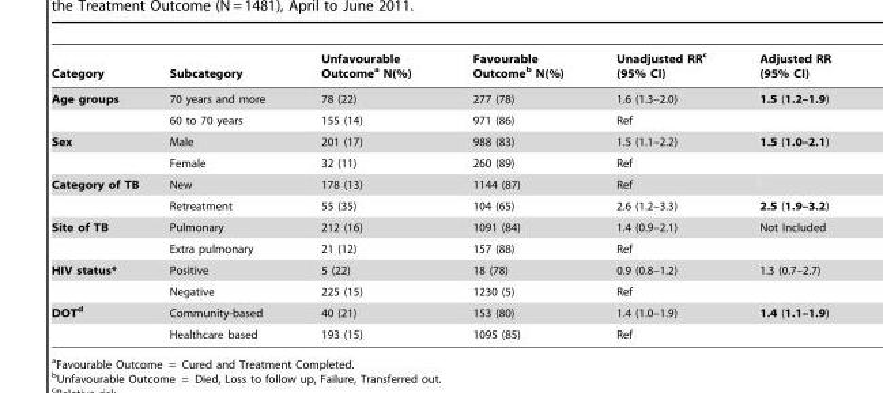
<table><thead><tr><td>Category</td><td>Subcategory</td><td>Unfavourable Outcome<sup>a</sup> N(%)</td><td>Favourable Outcome<sup>b</sup> N(%)</td><td>Unadjusted RR<sup>c</sup> (95% CI)</td><td>Adjusted RR (95% CI)</td></tr></thead><tbody><tr><td rowspan="2">Age groups</td><td>70 years and more</td><td>78 (22)</td><td>277 (78)</td><td>1.6 (1.3–2.0)</td><td>1.5 (1.2–1.9)</td></tr><tr><td>60 to 70 years</td><td>155 (14)</td><td>971 (86)</td><td>Ref</td><td></td></tr><tr><td rowspan="2">Sex</td><td>Male</td><td>201 (17)</td><td>988 (83)</td><td>1.5 (1.1–2.2)</td><td>1.5 (1.0–2.1)</td></tr><tr><td>Female</td><td>32 (11)</td><td>260 (89)</td><td>Ref</td><td></td></tr><tr><td rowspan="2">Category of TB</td><td>New</td><td>178 (13)</td><td>1144 (87)</td><td>Ref</td><td></td></tr><tr><td>Retreatment</td><td>55 (35)</td><td>104 (65)</td><td>2.6 (1.2–3.3)</td><td>2.5 (1.9–3.2)</td></tr><tr><td rowspan="2">Site of TB</td><td>Pulmonary</td><td>212 (16)</td><td>1091 (84)</td><td>1.4 (0.9–2.1)</td><td>Not Included</td></tr><tr><td>Extra pulmonary</td><td>21 (12)</td><td>157 (88)</td><td>Ref</td><td></td></tr><tr><td rowspan="2">HIV status*</td><td>Positive</td><td>5 (22)</td><td>18 (78)</td><td>0.9 (0.8–1.2)</td><td>1.3 (0.7–2.7)</td></tr><tr><td>Negative</td><td>225 (15)</td><td>1230 (5)</td><td>Ref</td><td></td></tr><tr><td rowspan="2">DOTd</td><td>Community-based</td><td>40 (21)</td><td>153 (80)</td><td>1.4 (1.0–1.9)</td><td>1.4 (1.1–1.9)</td></tr><tr><td>Healthcare based</td><td>193 (15)</td><td>1095 (85)</td><td>Ref</td><td></td></tr></tbody></table>